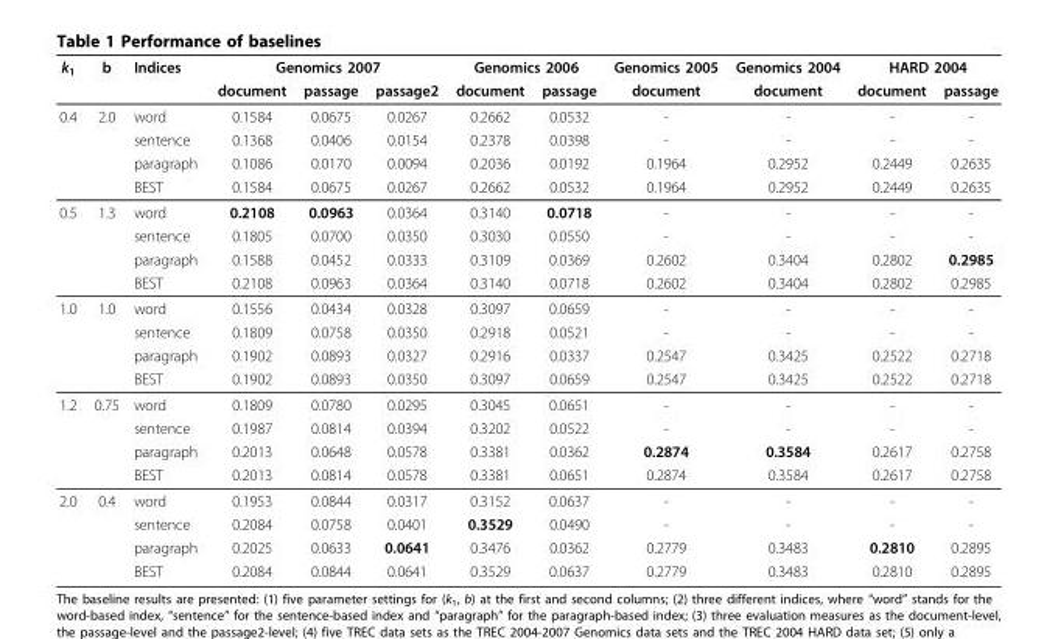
<table><thead><tr><td rowspan="2">k<sub>1</sub></td><td rowspan="2">b</td><td rowspan="2">Indices</td><td colspan="3">Genomics 2007</td><td colspan="2">Genomics 2006</td><td rowspan="2">Genomics 2005 document</td><td rowspan="2">Genomics 2004 document</td><td colspan="2">HARD 2004</td></tr><tr><td>document</td><td>passage</td><td>passage2</td><td>document</td><td>passage</td><td>document</td><td>passage</td></tr></thead><tbody><tr><td rowspan="4">0.4</td><td>2.0</td><td>word</td><td>0.1584</td><td>0.0675</td><td>0.0267</td><td>0.2662</td><td>0.0532</td><td>-</td><td>-</td><td>-</td><td>-</td></tr><tr><td></td><td>sentence</td><td>0.1368</td><td>0.0406</td><td>0.0154</td><td>0.2378</td><td>0.0398</td><td>-</td><td>-</td><td>-</td><td>-</td></tr><tr><td></td><td>paragraph</td><td>0.1086</td><td>0.0170</td><td>0.0094</td><td>0.2036</td><td>0.0192</td><td>0.1964</td><td>0.2952</td><td>0.2449</td><td>0.2635</td></tr><tr><td></td><td>BEST</td><td>0.1584</td><td>0.0675</td><td>0.0267</td><td>0.2662</td><td>0.0532</td><td>0.1964</td><td>0.2952</td><td>0.2449</td><td>0.2635</td></tr><tr><td rowspan="4">0.5</td><td>1.3</td><td>word</td><td>0.2108</td><td>0.0963</td><td>0.0364</td><td>0.3140</td><td>0.0718</td><td>-</td><td>-</td><td>-</td><td>-</td></tr><tr><td></td><td>sentence</td><td>0.1805</td><td>0.0700</td><td>0.0350</td><td>0.3030</td><td>0.0550</td><td>-</td><td>-</td><td>-</td><td>-</td></tr><tr><td></td><td>paragraph</td><td>0.1588</td><td>0.0452</td><td>0.0333</td><td>0.3109</td><td>0.0369</td><td>0.2602</td><td>0.3404</td><td>0.2802</td><td>0.2985</td></tr><tr><td></td><td>BEST</td><td>0.2108</td><td>0.0963</td><td>0.0364</td><td>0.3140</td><td>0.0718</td><td>0.2602</td><td>0.3404</td><td>0.2802</td><td>0.2985</td></tr><tr><td rowspan="4">1.0</td><td>1.0</td><td>word</td><td>0.1556</td><td>0.0434</td><td>0.0328</td><td>0.3097</td><td>0.0659</td><td>-</td><td>-</td><td>-</td><td>-</td></tr><tr><td></td><td>sentence</td><td>0.1809</td><td>0.0758</td><td>0.0350</td><td>0.2918</td><td>0.0521</td><td>-</td><td>-</td><td>-</td><td>-</td></tr><tr><td></td><td>paragraph</td><td>0.1902</td><td>0.0893</td><td>0.0327</td><td>0.2916</td><td>0.0337</td><td>0.2547</td><td>0.3425</td><td>0.2522</td><td>0.2718</td></tr><tr><td></td><td>BEST</td><td>0.1902</td><td>0.0893</td><td>0.0350</td><td>0.3097</td><td>0.0659</td><td>0.2547</td><td>0.3425</td><td>0.2522</td><td>0.2718</td></tr><tr><td rowspan="4">1.2</td><td>0.75</td><td>word</td><td>0.1809</td><td>0.0780</td><td>0.0295</td><td>0.3045</td><td>0.0651</td><td>-</td><td>-</td><td>-</td><td>-</td></tr><tr><td></td><td>sentence</td><td>0.1987</td><td>0.0814</td><td>0.0394</td><td>0.3202</td><td>0.0522</td><td>-</td><td>-</td><td>-</td><td>-</td></tr><tr><td></td><td>paragraph</td><td>0.2013</td><td>0.0648</td><td>0.0578</td><td>0.3381</td><td>0.0362</td><td>0.2874</td><td>0.3584</td><td>0.2617</td><td>0.2758</td></tr><tr><td></td><td>BEST</td><td>0.2013</td><td>0.0814</td><td>0.0578</td><td>0.3381</td><td>0.0651</td><td>0.2874</td><td>0.3584</td><td>0.2617</td><td>0.2758</td></tr><tr><td rowspan="4">2.0</td><td>0.4</td><td>word</td><td>0.1953</td><td>0.0844</td><td>0.0317</td><td>0.3152</td><td>0.0637</td><td>-</td><td>-</td><td>-</td><td>-</td></tr><tr><td></td><td>sentence</td><td>0.2084</td><td>0.0758</td><td>0.0401</td><td>0.3529</td><td>0.0490</td><td>-</td><td>-</td><td>-</td><td>-</td></tr><tr><td></td><td>paragraph</td><td>0.2025</td><td>0.0633</td><td>0.0641</td><td>0.3476</td><td>0.0362</td><td>0.2779</td><td>0.3483</td><td>0.2810</td><td>0.2895</td></tr><tr><td></td><td>BEST</td><td>0.2084</td><td>0.0844</td><td>0.0641</td><td>0.3529</td><td>0.0637</td><td>0.2779</td><td>0.3483</td><td>0.2810</td><td>0.2895</td></tr></tbody></table>